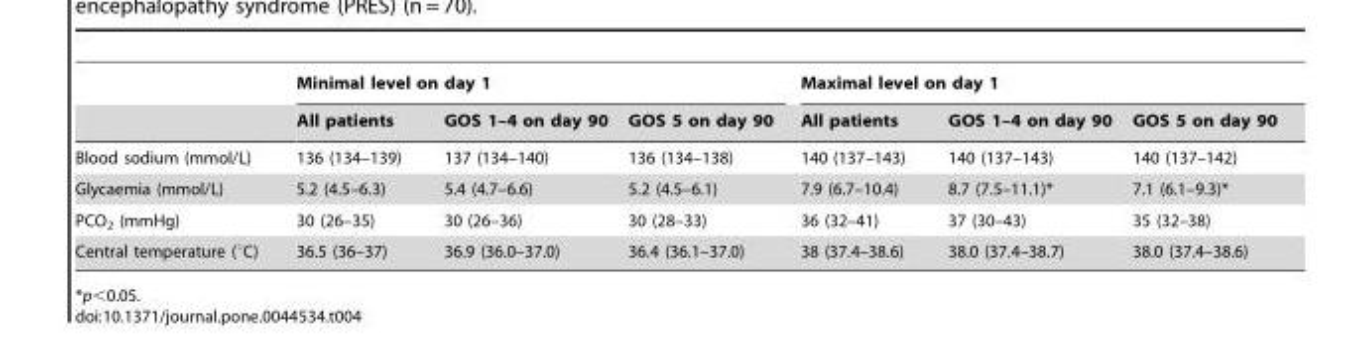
<table><thead><tr><td rowspan="2"></td><td colspan="3">Minimal level on day 1</td><td colspan="3">Maximal level on day 1</td></tr><tr><td>All patients</td><td>GOS 1–4 on day 90</td><td>GOS 5 on day 90</td><td>All patients</td><td>GOS 1–4 on day 90</td><td>GOS 5 on day 90</td></tr></thead><tbody><tr><td>Blood sodium (mmol/L)</td><td>136 (134–139)</td><td>137 (134–140)</td><td>136 (134–138)</td><td>140 (137–143)</td><td>140 (137–143)</td><td>140 (137–142)</td></tr><tr><td>Glycaemia (mmol/L)</td><td>5.2 (4.5–6.3)</td><td>5.4 (4.7–6.6)</td><td>5.2 (4.5–6.1)</td><td>7.9 (6.7–10.4)</td><td>8.7 (7.5–11.1)*</td><td>7.1 (6.1–9.3)*</td></tr><tr><td>PCO<sub>2</sub> (mmHg)</td><td>30 (26–35)</td><td>30 (26–36)</td><td>30 (28–33)</td><td>36 (32–41)</td><td>37 (30–43)</td><td>35 (32–38)</td></tr><tr><td>Central temperature (°C)</td><td>36.5 (36–37)</td><td>36.9 (36.0–37.0)</td><td>36.4 (36.1–37.0)</td><td>38 (37.4–38.6)</td><td>38.0 (37.4–38.7)</td><td>38.0 (37.4–38.6)</td></tr></tbody></table>